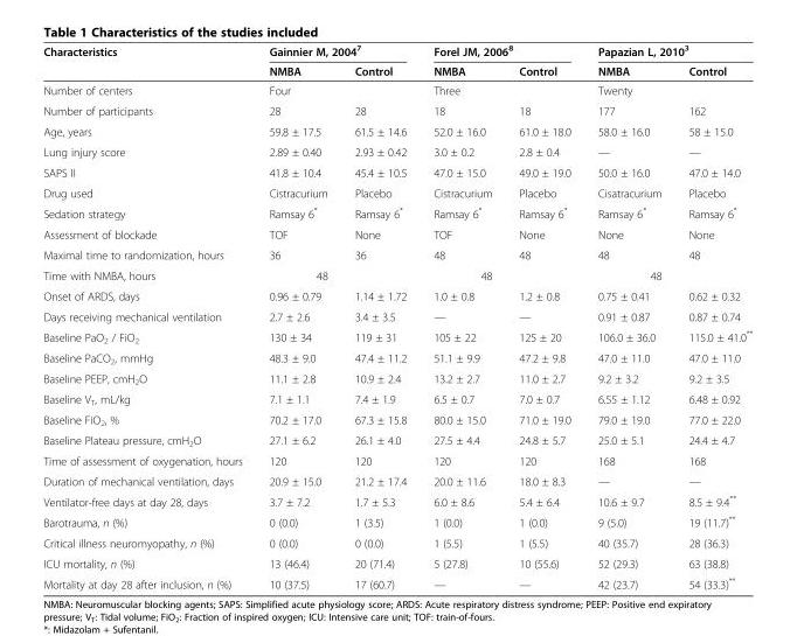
<table><thead><tr><td rowspan="2">Characteristics</td><td colspan="2">Gainnier M, 2004<sup>7</sup></td><td colspan="2">Forel JM, 2006<sup>8</sup></td><td colspan="2">Papazian L, 2010<sup>3</sup></td></tr><tr><td>NMBA</td><td>Control</td><td>NMBA</td><td>Control</td><td>NMBA</td><td>Control</td></tr></thead><tbody><tr><td>Number of centers</td><td>Four</td><td></td><td>Three</td><td></td><td>Twenty</td><td></td></tr><tr><td>Number of participants</td><td>28</td><td>28</td><td>18</td><td>18</td><td>177</td><td>162</td></tr><tr><td>Age, years</td><td>59.8 ± 17.5</td><td>61.5 ± 14.6</td><td>52.0 ± 16.0</td><td>61.0 ± 18.0</td><td>58.0 ± 16.0</td><td>58 ± 15.0</td></tr><tr><td>Lung injury score</td><td>2.89 ± 0.40</td><td>2.93 ± 0.42</td><td>3.0 ± 0.2</td><td>2.8 ± 0.4</td><td>—</td><td>—</td></tr><tr><td>SAPS II</td><td>41.8 ± 10.4</td><td>45.4 ± 10.5</td><td>47.0 ± 15.0</td><td>49.0 ± 19.0</td><td>50.0 ± 16.0</td><td>47.0 ± 14.0</td></tr><tr><td>Drug used</td><td>Cistracurium</td><td>Placebo</td><td>Cistracurium</td><td>Placebo</td><td>Cisatracurium</td><td>Placebo</td></tr><tr><td>Sedation strategy</td><td>Ramsay 6*</td><td>Ramsay 6*</td><td>Ramsay 6*</td><td>Ramsay 6*</td><td>Ramsay 6*</td><td>Ramsay 6*</td></tr><tr><td>Assessment of blockade</td><td>TOF</td><td>None</td><td>TOF</td><td>None</td><td>None</td><td>None</td></tr><tr><td>Maximal time to randomization, hours</td><td>36</td><td>36</td><td>48</td><td>48</td><td>48</td><td>48</td></tr><tr><td>Time with NMBA, hours</td><td>48</td><td></td><td>48</td><td></td><td>48</td><td></td></tr><tr><td>Onset of ARDS, days</td><td>0.96 ± 0.79</td><td>1.14 ± 1.72</td><td>1.0 ± 0.8</td><td>1.2 ± 0.8</td><td>0.75 ± 0.41</td><td>0.62 ± 0.32</td></tr><tr><td>Days receiving mechanical ventilation</td><td>2.7 ± 2.6</td><td>3.4 ± 3.5</td><td>—</td><td>—</td><td>0.91 ± 0.87</td><td>0.87 ± 0.74</td></tr><tr><td>Baseline PaO<sub>2</sub> / FiO<sub>2</sub></td><td>130 ± 34</td><td>119 ± 31</td><td>105 ± 22</td><td>125 ± 20</td><td>106.0 ± 36.0</td><td>115.0 ± 41.0**</td></tr><tr><td>Baseline PaCO<sub>2</sub>, mmHg</td><td>48.3 ± 9.0</td><td>47.4 ± 11.2</td><td>51.1 ± 9.9</td><td>47.2 ± 9.8</td><td>47.0 ± 11.0</td><td>47.0 ± 11.0</td></tr><tr><td>Baseline PEEP, cmH<sub>2</sub>O</td><td>11.1 ± 2.8</td><td>10.9 ± 2.4</td><td>13.2 ± 2.7</td><td>11.0 ± 2.7</td><td>9.2 ± 3.2</td><td>9.2 ± 3.5</td></tr><tr><td>Baseline V<sub>T</sub>, mL/kg</td><td>7.1 ± 1.1</td><td>7.4 ± 1.9</td><td>6.5 ± 0.7</td><td>7.0 ± 0.7</td><td>6.55 ± 1.12</td><td>6.48 ± 0.92</td></tr><tr><td>Baseline FiO<sub>2</sub>, %</td><td>70.2 ± 17.0</td><td>67.3 ± 15.8</td><td>80.0 ± 15.0</td><td>71.0 ± 19.0</td><td>79.0 ± 19.0</td><td>77.0 ± 22.0</td></tr><tr><td>Baseline Plateau pressure, cmH<sub>2</sub>O</td><td>27.1 ± 6.2</td><td>26.1 ± 4.0</td><td>27.5 ± 4.4</td><td>24.8 ± 5.7</td><td>25.0 ± 5.1</td><td>24.4 ± 4.7</td></tr><tr><td>Time of assessment of oxygenation, hours</td><td>120</td><td>120</td><td>120</td><td>120</td><td>168</td><td>168</td></tr><tr><td>Duration of mechanical ventilation, days</td><td>20.9 ± 15.0</td><td>21.2 ± 17.4</td><td>20.0 ± 11.6</td><td>18.0 ± 8.3</td><td>—</td><td>—</td></tr><tr><td>Ventilator-free days at day 28, days</td><td>3.7 ± 7.2</td><td>1.7 ± 5.3</td><td>6.0 ± 8.6</td><td>5.4 ± 6.4</td><td>10.6 ± 9.7</td><td>8.5 ± 9.4**</td></tr><tr><td>Barotrauma, n (%)</td><td>0 (0.0)</td><td>1 (3.5)</td><td>1 (0.0)</td><td>1 (0.0)</td><td>9 (5.0)</td><td>19 (11.7)**</td></tr><tr><td>Critical illness neuromyopathy, n (%)</td><td>0 (0.0)</td><td>0 (0.0)</td><td>1 (5.5)</td><td>1 (5.5)</td><td>40 (35.7)</td><td>28 (36.3)</td></tr><tr><td>ICU mortality, n (%)</td><td>13 (46.4)</td><td>20 (71.4)</td><td>5 (27.8)</td><td>10 (55.6)</td><td>52 (29.3)</td><td>63 (38.8)</td></tr><tr><td>Mortality at day 28 after inclusion, n (%)</td><td>10 (37.5)</td><td>17 (60.7)</td><td>—</td><td>—</td><td>42 (23.7)</td><td>54 (33.3)**</td></tr></tbody></table>